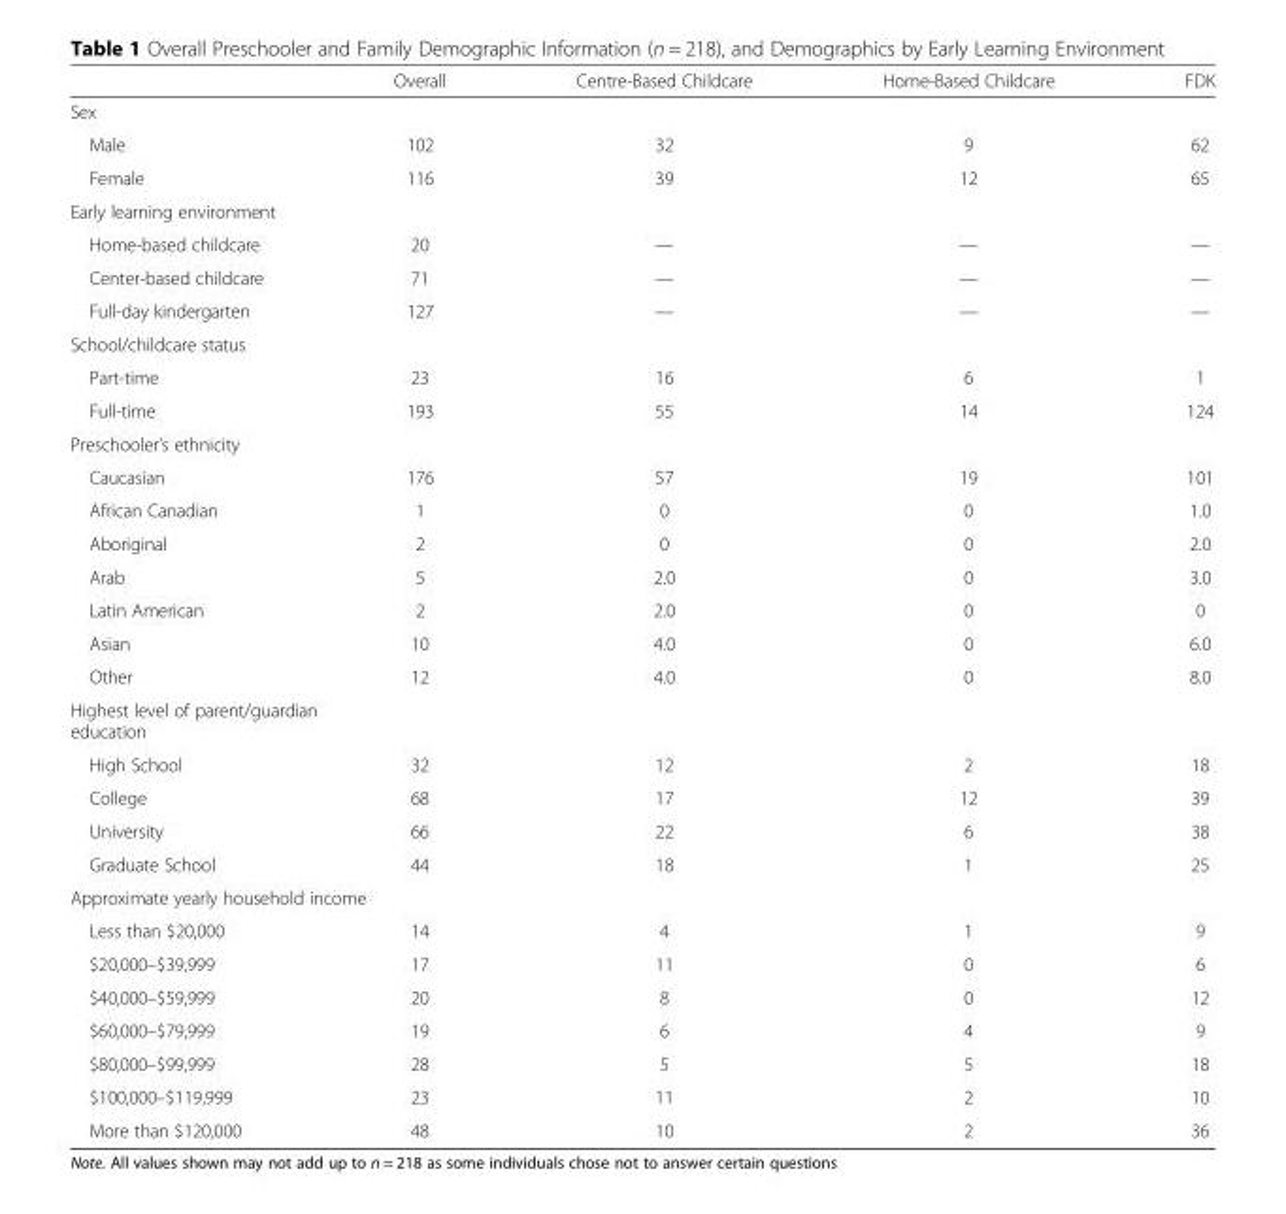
<table><thead><tr><td></td><td>Overall</td><td>Centre-Based Childcare</td><td>Home-Based Childcare</td><td>FDK</td></tr></thead><tbody><tr><td colspan="5">Sex</td></tr><tr><td>Male</td><td>102</td><td>32</td><td>9</td><td>62</td></tr><tr><td>Female</td><td>116</td><td>39</td><td>12</td><td>65</td></tr><tr><td colspan="5">Early learning environment</td></tr><tr><td>Home-based childcare</td><td>20</td><td>—</td><td>—</td><td>—</td></tr><tr><td>Center-based childcare</td><td>71</td><td>—</td><td>—</td><td>—</td></tr><tr><td>Full-day kindergarten</td><td>127</td><td>—</td><td>—</td><td>—</td></tr><tr><td colspan="5">School/childcare status</td></tr><tr><td>Part-time</td><td>23</td><td>16</td><td>6</td><td>1</td></tr><tr><td>Full-time</td><td>193</td><td>55</td><td>14</td><td>124</td></tr><tr><td colspan="5">Preschooler’s ethnicity</td></tr><tr><td>Caucasian</td><td>176</td><td>57</td><td>19</td><td>101</td></tr><tr><td>African Canadian</td><td>1</td><td>0</td><td>0</td><td>1.0</td></tr><tr><td>Aboriginal</td><td>2</td><td>0</td><td>0</td><td>2.0</td></tr><tr><td>Arab</td><td>5</td><td>2.0</td><td>0</td><td>3.0</td></tr><tr><td>Latin American</td><td>2</td><td>2.0</td><td>0</td><td>0</td></tr><tr><td>Asian</td><td>10</td><td>4.0</td><td>0</td><td>6.0</td></tr><tr><td>Other</td><td>12</td><td>4.0</td><td>0</td><td>8.0</td></tr><tr><td colspan="5">Highest level of parent/guardian education</td></tr><tr><td>High School</td><td>32</td><td>12</td><td>2</td><td>18</td></tr><tr><td>College</td><td>68</td><td>17</td><td>12</td><td>39</td></tr><tr><td>University</td><td>66</td><td>22</td><td>6</td><td>38</td></tr><tr><td>Graduate School</td><td>44</td><td>18</td><td>1</td><td>25</td></tr><tr><td colspan="5">Approximate yearly household income</td></tr><tr><td>Less than $20,000</td><td>14</td><td>4</td><td>1</td><td>9</td></tr><tr><td>$20,000–$39,999</td><td>17</td><td>11</td><td>0</td><td>6</td></tr><tr><td>$40,000–$59,999</td><td>20</td><td>8</td><td>0</td><td>12</td></tr><tr><td>$60,000–$79,999</td><td>19</td><td>6</td><td>4</td><td>9</td></tr><tr><td>$80,000–$99,999</td><td>28</td><td>5</td><td>5</td><td>18</td></tr><tr><td>$100,000–$119,999</td><td>23</td><td>11</td><td>2</td><td>10</td></tr><tr><td>More than $120,000</td><td>48</td><td>10</td><td>2</td><td>36</td></tr></tbody></table>